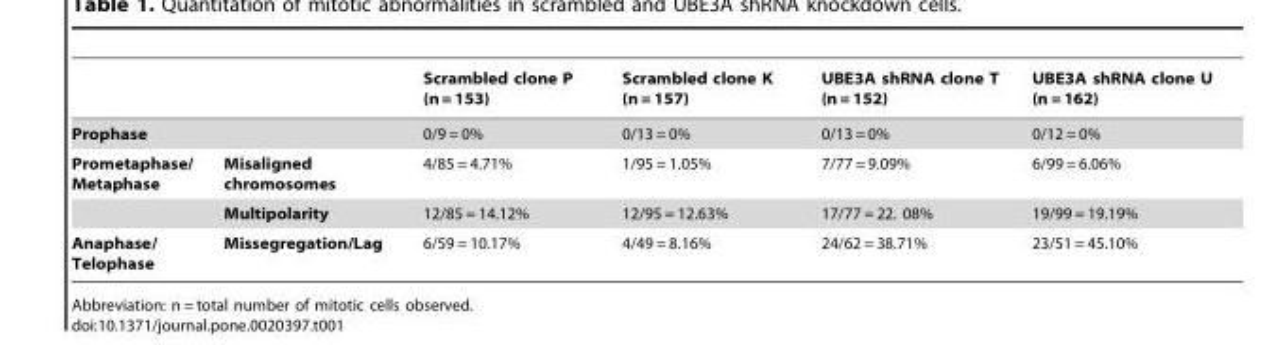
<table><thead><tr><td></td><td></td><td>Scrambled clone P (n = 153)</td><td>Scrambled clone K (n = 157)</td><td>UBE3A shRNA clone T (n = 152)</td><td>UBE3A shRNA clone U (n = 162)</td></tr></thead><tbody><tr><td colspan="2">Prophase</td><td>0/9 = 0%</td><td>0/13 = 0%</td><td>0/13 = 0%</td><td>0/12 = 0%</td></tr><tr><td rowspan="2">Prometaphase/ Metaphase</td><td>Misaligned chromosomes</td><td>4/85 = 4.71%</td><td>1/95 = 1.05%</td><td>7/77 = 9.09%</td><td>6/99 = 6.06%</td></tr><tr><td>Multipolarity</td><td>12/85 = 14.12%</td><td>12/95 = 12.63%</td><td>17/77 = 22. 08%</td><td>19/99 = 19.19%</td></tr><tr><td>Anaphase/ Telophase</td><td>Missegregation/Lag</td><td>6/59 = 10.17%</td><td>4/49 = 8.16%</td><td>24/62 = 38.71%</td><td>23/51 = 45.10%</td></tr></tbody></table>